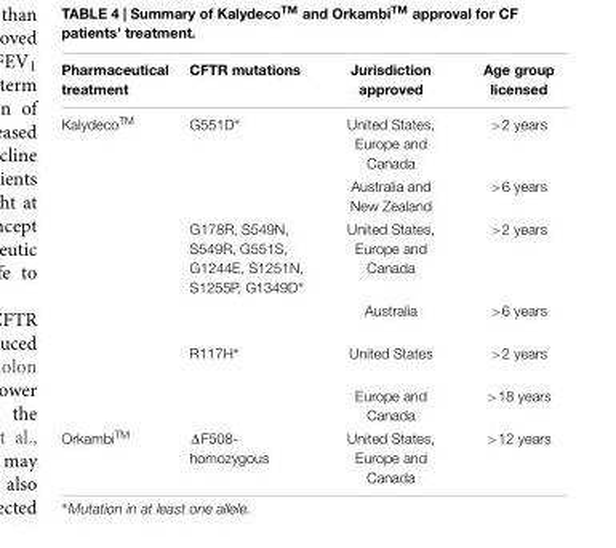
<table><thead><tr><td>Pharmaceutical treatment</td><td>CFTR mutations</td><td>Jurisdiction approved</td><td>Age group licensed</td></tr></thead><tbody><tr><td rowspan="6">Kalydeco<sup>TM</sup></td><td>G551D∗</td><td>United States, Europe and Canada</td><td>&gt;2 years</td></tr><tr><td></td><td>Australia and New Zealand</td><td>&gt;6 years</td></tr><tr><td>G178R, S549N, S549R, G551S, G1244E, S1251N, S1255P, G1349D∗</td><td>United States, Europe and Canada</td><td>&gt;2 years</td></tr><tr><td></td><td>Australia</td><td>&gt;6 years</td></tr><tr><td>R117H∗</td><td>United States</td><td>&gt;2 years</td></tr><tr><td></td><td>Europe and Canada</td><td>&gt;18 years</td></tr><tr><td>Orkambi<sup>TM</sup></td><td>ΔF508- homozygous</td><td>United States, Europe and Canada</td><td>&gt;12 years</td></tr></tbody></table>